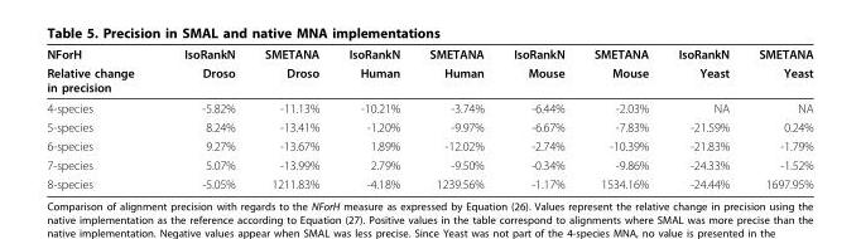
<table><thead><tr><td rowspan="2">NForH Relative change in precision</td><td rowspan="2">IsoRankN Droso</td><td rowspan="2">SMETANA Droso</td><td rowspan="2">IsoRankN Human</td><td rowspan="2">SMETANA Human</td><td rowspan="2">IsoRankN Mouse</td><td rowspan="2">SMETANA Mouse</td><td rowspan="2">IsoRankN Yeast</td><td rowspan="2">SMETANA Yeast</td></tr><tr></tr></thead><tbody><tr><td>4-species</td><td>-5.82%</td><td>-11.13%</td><td>-10.21%</td><td>-3.74%</td><td>-6.44%</td><td>-2.03%</td><td>NA</td><td>NA</td></tr><tr><td>5-species</td><td>8.24%</td><td>-13.41%</td><td>-1.20%</td><td>-9.97%</td><td>-6.67%</td><td>-7.83%</td><td>-21.59%</td><td>0.24%</td></tr><tr><td>6-species</td><td>9.27%</td><td>-13.67%</td><td>1.89%</td><td>-12.02%</td><td>-2.74%</td><td>-10.39%</td><td>-21.83%</td><td>-1.79%</td></tr><tr><td>7-species</td><td>5.07%</td><td>-13.99%</td><td>2.79%</td><td>-9.50%</td><td>-0.34%</td><td>-9.86%</td><td>-24.33%</td><td>-1.52%</td></tr><tr><td>8-species</td><td>-5.05%</td><td>1211.83%</td><td>-4.18%</td><td>1239.56%</td><td>-1.17%</td><td>1534.16%</td><td>-24.44%</td><td>1697.95%</td></tr></tbody></table>